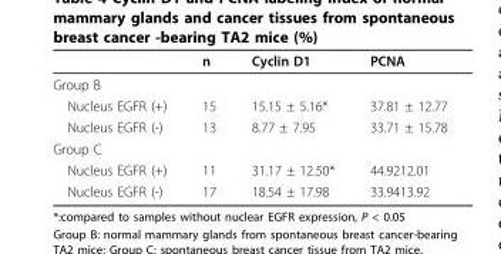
<table><thead><tr><td></td><td>n</td><td>Cyclin D1</td><td>PCNA</td></tr></thead><tbody><tr><td colspan="4">Group B</td></tr><tr><td>Nucleus EGFR (+)</td><td>15</td><td>15.15 ± 5.16*</td><td>37.81 ± 12.77</td></tr><tr><td>Nucleus EGFR (-)</td><td>13</td><td>8.77 ± 7.95</td><td>33.71 ± 15.78</td></tr><tr><td colspan="4">Group C</td></tr><tr><td>Nucleus EGFR (+)</td><td>11</td><td>31.17 ± 12.50*</td><td>44.9212.01</td></tr><tr><td>Nucleus EGFR (-)</td><td>17</td><td>18.54 ± 17.98</td><td>33.9413.92</td></tr></tbody></table>